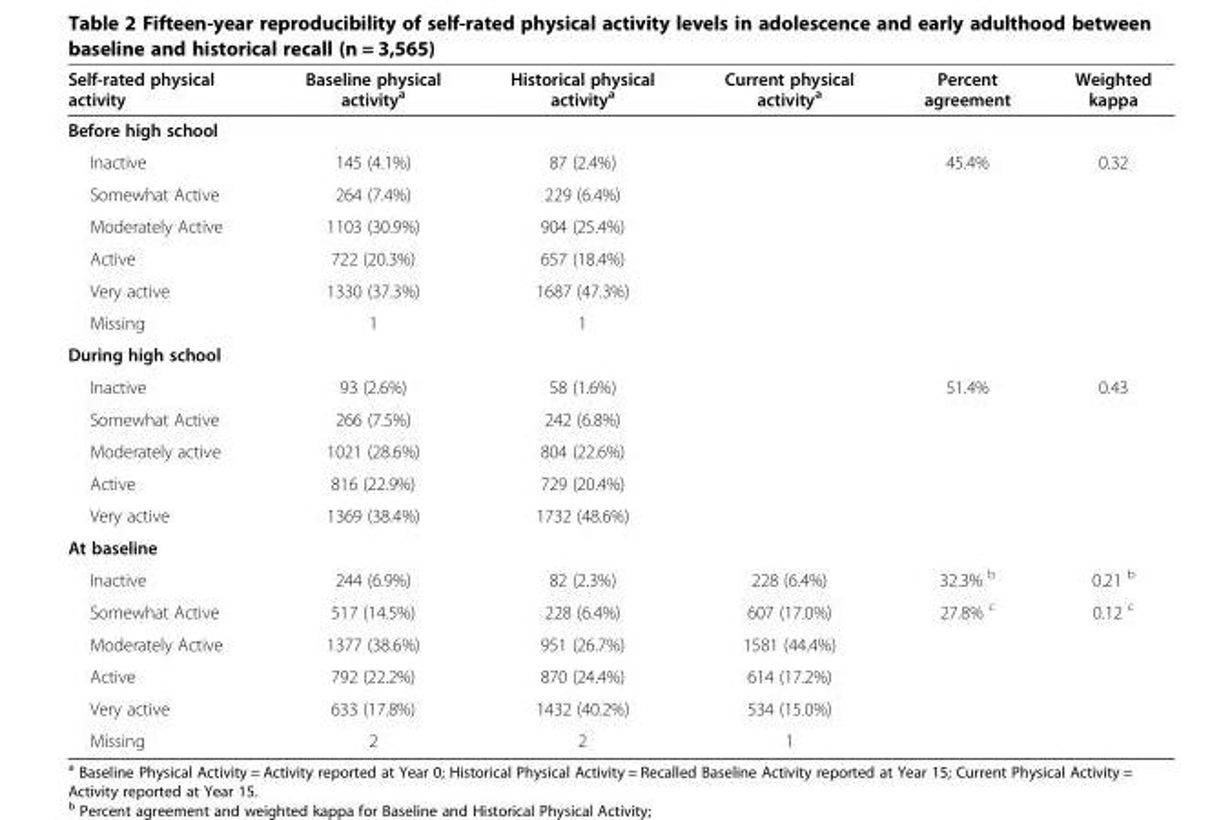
<table><thead><tr><td>Self-rated physical activity</td><td>Baseline physical activity<sup>a</sup></td><td>Historical physical activity<sup>a</sup></td><td>Current physical activity<sup>a</sup></td><td>Percent agreement</td><td>Weighted kappa</td></tr></thead><tbody><tr><td colspan="6">Before high school</td></tr><tr><td>Inactive</td><td>145 (4.1%)</td><td>87 (2.4%)</td><td></td><td>45.4%</td><td>0.32</td></tr><tr><td>Somewhat Active</td><td>264 (7.4%)</td><td>229 (6.4%)</td><td rowspan="5"></td><td rowspan="5"></td><td rowspan="5"></td></tr><tr><td>Moderately Active</td><td>1103 (30.9%)</td><td>904 (25.4%)</td></tr><tr><td>Active</td><td>722 (20.3%)</td><td>657 (18.4%)</td></tr><tr><td>Very active</td><td>1330 (37.3%)</td><td>1687 (47.3%)</td></tr><tr><td>Missing</td><td>1</td><td>1</td></tr><tr><td colspan="6">During high school</td></tr><tr><td>Inactive</td><td>93 (2.6%)</td><td>58 (1.6%)</td><td rowspan="5"></td><td>51.4%</td><td>0.43</td></tr><tr><td>Somewhat Active</td><td>266 (7.5%)</td><td>242 (6.8%)</td><td rowspan="4"></td><td rowspan="4"></td></tr><tr><td>Moderately active</td><td>1021 (28.6%)</td><td>804 (22.6%)</td></tr><tr><td>Active</td><td>816 (22.9%)</td><td>729 (20.4%)</td></tr><tr><td>Very active</td><td>1369 (38.4%)</td><td>1732 (48.6%)</td></tr><tr><td colspan="6">At baseline</td></tr><tr><td>Inactive</td><td>244 (6.9%)</td><td>82 (2.3%)</td><td>228 (6.4%)</td><td>32.3% <sup>b</sup></td><td>0.21 <sup>b</sup></td></tr><tr><td>Somewhat Active</td><td>517 (14.5%)</td><td>228 (6.4%)</td><td>607 (17.0%)</td><td rowspan="4">27.8% <sup>c</sup></td><td rowspan="4">0.12 <sup>c</sup></td></tr><tr><td>Moderately Active</td><td>1377 (38.6%)</td><td>951 (26.7%)</td><td>1581 (44.4%)</td></tr><tr><td>Active</td><td>792 (22.2%)</td><td>870 (24.4%)</td><td>614 (17.2%)</td></tr><tr><td>Very active</td><td>633 (17.8%)</td><td>1432 (40.2%)</td><td>534 (15.0%)</td></tr><tr><td>Missing</td><td>2</td><td>2</td><td>1</td><td></td><td></td></tr></tbody></table>